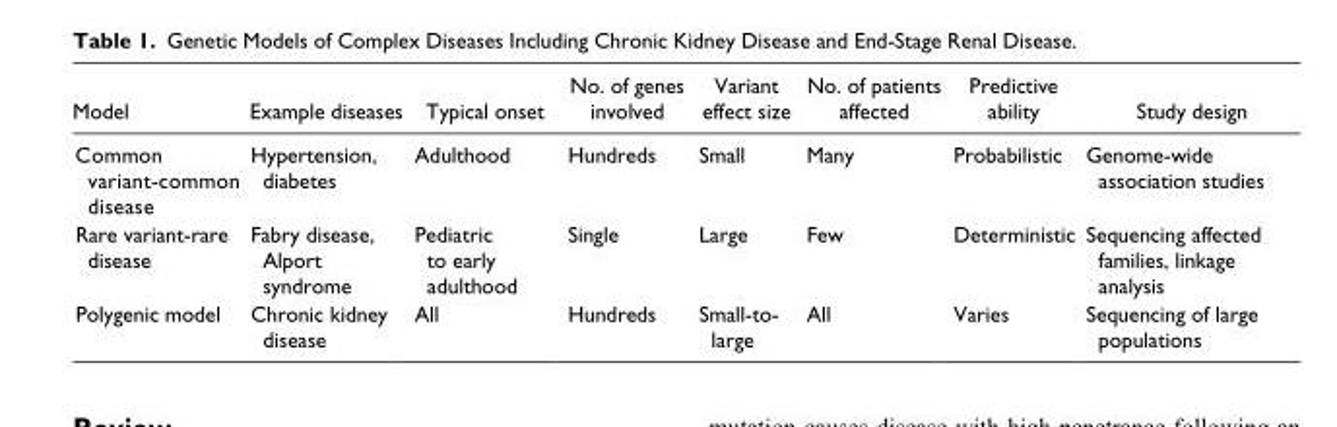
<table><thead><tr><td>Model</td><td>Example diseases</td><td>Typical onset</td><td>No. of genes involved</td><td>Variant effect size</td><td>No. of patients affected</td><td>Predictive ability</td><td>Study design</td></tr></thead><tbody><tr><td>Common variant-common disease</td><td>Hypertension, diabetes</td><td>Adulthood</td><td>Hundreds</td><td>Small</td><td>Many</td><td>Probabilistic</td><td>Genome-wide association studies</td></tr><tr><td>Rare variant-rare disease</td><td>Fabry disease, Alport syndrome</td><td>Pediatric to early adulthood</td><td>Single</td><td>Large</td><td>Few</td><td>Deterministic</td><td>Sequencing affected families, linkage analysis</td></tr><tr><td>Polygenic model</td><td>Chronic kidney disease</td><td>All</td><td>Hundreds</td><td>Small-to- large</td><td>All</td><td>Varies</td><td>Sequencing of large populations</td></tr></tbody></table>